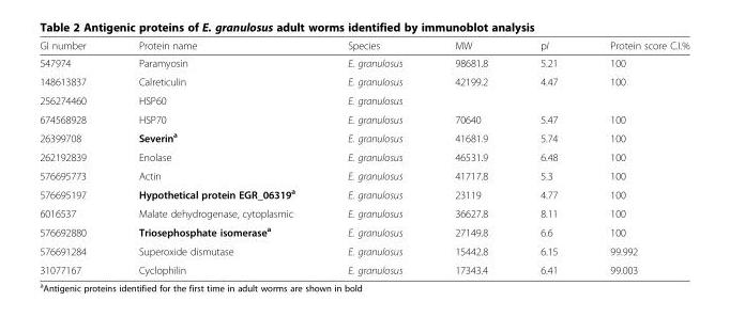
<table><thead><tr><td>GI number</td><td>Protein name</td><td>Species</td><td>MW</td><td>pI</td><td>Protein score C.I.%</td></tr></thead><tbody><tr><td>547974</td><td>Paramyosin</td><td>E. granulosus</td><td>98681.8</td><td>5.21</td><td>100</td></tr><tr><td>148613837</td><td>Calreticulin</td><td>E. granulosus</td><td>42199.2</td><td>4.47</td><td>100</td></tr><tr><td>256274460</td><td>HSP60</td><td>E. granulosus</td><td></td><td></td><td></td></tr><tr><td>674568928</td><td>HSP70</td><td>E. granulosus</td><td>70640</td><td>5.47</td><td>100</td></tr><tr><td>26399708</td><td>Severin<sup>a</sup></td><td>E. granulosus</td><td>41681.9</td><td>5.74</td><td>100</td></tr><tr><td>262192839</td><td>Enolase</td><td>E. granulosus</td><td>46531.9</td><td>6.48</td><td>100</td></tr><tr><td>576695773</td><td>Actin</td><td>E. granulosus</td><td>41717.8</td><td>5.3</td><td>100</td></tr><tr><td>576695197</td><td>Hypothetical protein EGR_06319<sup>a</sup></td><td>E. granulosus</td><td>23119</td><td>4.77</td><td>100</td></tr><tr><td>6016537</td><td>Malate dehydrogenase, cytoplasmic</td><td>E. granulosus</td><td>36627.8</td><td>8.11</td><td>100</td></tr><tr><td>576692880</td><td>Triosephosphate isomerase<sup>a</sup></td><td>E. granulosus</td><td>27149.8</td><td>6.6</td><td>100</td></tr><tr><td>576691284</td><td>Superoxide dismutase</td><td>E. granulosus</td><td>15442.8</td><td>6.15</td><td>99.992</td></tr><tr><td>31077167</td><td>Cyclophilin</td><td>E. granulosus</td><td>17343.4</td><td>6.41</td><td>99.003</td></tr></tbody></table>